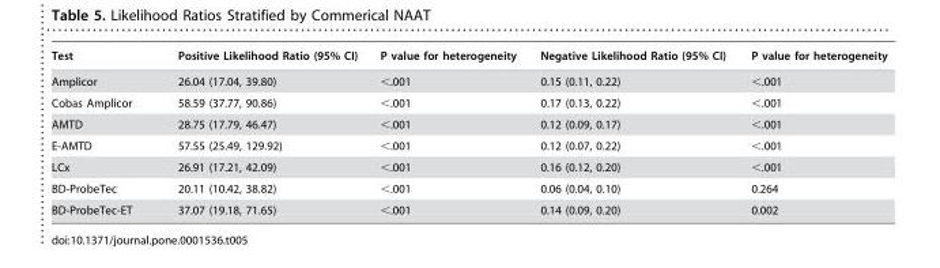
<table><thead><tr><td>Test</td><td>Positive Likelihood Ratio (95% CI)</td><td>P value for heterogeneity</td><td>Negative Likelihood Ratio (95% CI)</td><td>P value for heterogeneity</td></tr></thead><tbody><tr><td>Amplicor</td><td>26.04 (17.04, 39.80)</td><td>&lt;.001</td><td>0.15 (0.11, 0.22)</td><td>&lt;.001</td></tr><tr><td>Cobas Amplicor</td><td>58.59 (37.77, 90.86)</td><td>&lt;.001</td><td>0.17 (0.13, 0.22)</td><td>&lt;.001</td></tr><tr><td>AMTD</td><td>28.75 (17.79, 46.47)</td><td>&lt;.001</td><td>0.12 (0.09, 0.17)</td><td>&lt;.001</td></tr><tr><td>E-AMTD</td><td>57.55 (25.49, 129.92)</td><td>&lt;.001</td><td>0.12 (0.07, 0.22)</td><td>&lt;.001</td></tr><tr><td>LCx</td><td>26.91 (17.21, 42.09)</td><td>&lt;.001</td><td>0.16 (0.12, 0.20)</td><td>&lt;.001</td></tr><tr><td>BD-ProbeTec</td><td>20.11 (10.42, 38.82)</td><td>&lt;.001</td><td>0.06 (0.04, 0.10)</td><td>0.264</td></tr><tr><td>BD-ProbeTec-ET</td><td>37.07 (19.18, 71.65)</td><td>&lt;.001</td><td>0.14 (0.09, 0.20)</td><td>0.002</td></tr></tbody></table>